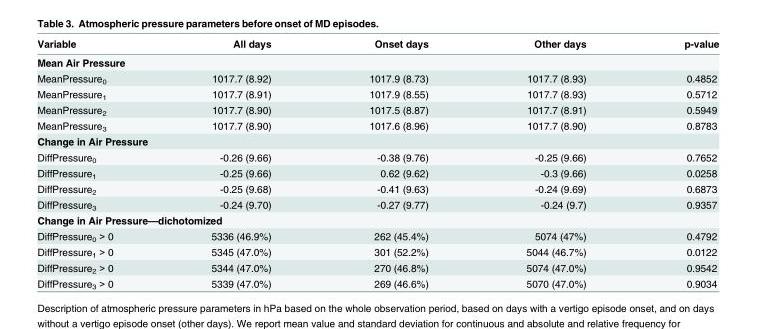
<table><thead><tr><td>Variable</td><td>All days</td><td>Onset days</td><td>Other days</td><td>p-value</td></tr></thead><tbody><tr><td colspan="5">Mean Air Pressure</td></tr><tr><td>MeanPressure<sub>0</sub></td><td>1017.7 (8.92)</td><td>1017.9 (8.73)</td><td>1017.7 (8.93)</td><td>0.4852</td></tr><tr><td>MeanPressure<sub>1</sub></td><td>1017.7 (8.91)</td><td>1017.9 (8.55)</td><td>1017.7 (8.93)</td><td>0.5712</td></tr><tr><td>MeanPressure<sub>2</sub></td><td>1017.7 (8.90)</td><td>1017.5 (8.87)</td><td>1017.7 (8.91)</td><td>0.5949</td></tr><tr><td>MeanPressure<sub>3</sub></td><td>1017.7 (8.90)</td><td>1017.6 (8.96)</td><td>1017.7 (8.90)</td><td>0.8783</td></tr><tr><td colspan="5">Change in Air Pressure</td></tr><tr><td>DiffPressure<sub>0</sub></td><td>-0.26 (9.66)</td><td>-0.38 (9.76)</td><td>-0.25 (9.66)</td><td>0.7652</td></tr><tr><td>DiffPressure<sub>1</sub></td><td>-0.25 (9.66)</td><td>0.62 (9.62)</td><td>-0.3 (9.66)</td><td>0.0258</td></tr><tr><td>DiffPressure<sub>2</sub></td><td>-0.25 (9.68)</td><td>-0.41 (9.63)</td><td>-0.24 (9.69)</td><td>0.6873</td></tr><tr><td>DiffPressure<sub>3</sub></td><td>-0.24 (9.70)</td><td>-0.27 (9.77)</td><td>-0.24 (9.7)</td><td>0.9357</td></tr><tr><td colspan="5">Change in Air Pressure—dichotomized</td></tr><tr><td>DiffPressure<sub>0</sub> &gt; 0</td><td>5336 (46.9%)</td><td>262 (45.4%)</td><td>5074 (47%)</td><td>0.4792</td></tr><tr><td>DiffPressure<sub>1</sub> &gt; 0</td><td>5345 (47.0%)</td><td>301 (52.2%)</td><td>5044 (46.7%)</td><td>0.0122</td></tr><tr><td>DiffPressure<sub>2</sub> &gt; 0</td><td>5344 (47.0%)</td><td>270 (46.8%)</td><td>5074 (47.0%)</td><td>0.9542</td></tr><tr><td>DiffPressure<sub>3</sub> &gt; 0</td><td>5339 (47.0%)</td><td>269 (46.6%)</td><td>5070 (47.0%)</td><td>0.9034</td></tr></tbody></table>